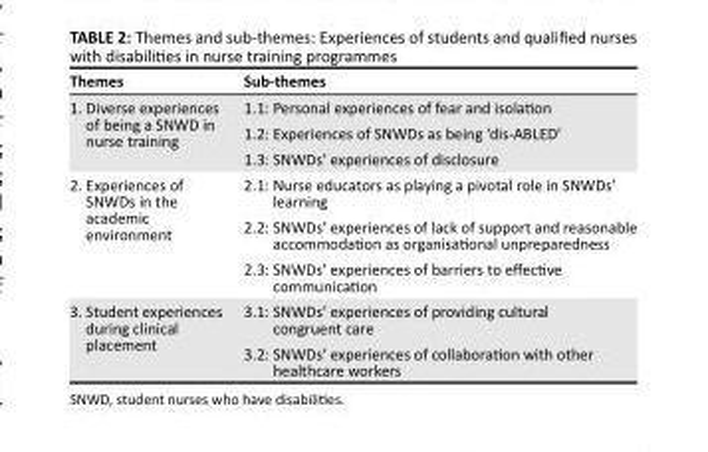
<table><thead><tr><td>Themes</td><td>Sub-themes</td></tr></thead><tbody><tr><td rowspan="3">1. Diverse experiences of being a SNWD in nurse training</td><td>1.1: Personal experiences of fear and isolation</td></tr><tr><td>1.2: Experiences of SNWDs as being ‘dis-ABLED’</td></tr><tr><td>1.3: SNWDs’ experiences of disclosure</td></tr><tr><td rowspan="3">2. Experiences of SNWDs in the academic environment</td><td>2.1: Nurse educators as playing a pivotal role in SNWDs’ learning</td></tr><tr><td>2.2: SNWDs’ experiences of lack of support and reasonable accommodation as organisational unpreparedness</td></tr><tr><td>2.3: SNWDs’ experiences of barriers to effective communication</td></tr><tr><td rowspan="2">3. Student experiences during clinical placement</td><td>3.1: SNWDs’ experiences of providing cultural congruent care</td></tr><tr><td>3.2: SNWDs’ experiences of collaboration with other healthcare workers</td></tr></tbody></table>